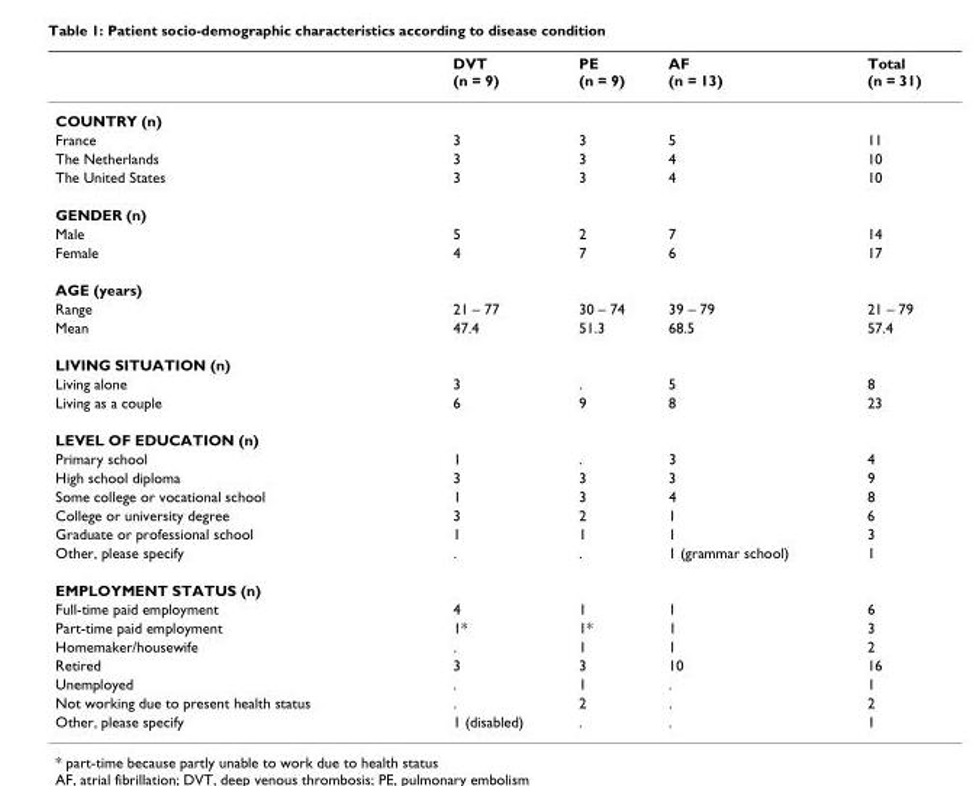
<table><thead><tr><td></td><td>DVT (n = 9)</td><td>PE (n = 9)</td><td>AF (n = 13)</td><td>Total (n = 31)</td></tr></thead><tbody><tr><td colspan="5">COUNTRY (n)</td></tr><tr><td>France</td><td>3</td><td>3</td><td>5</td><td>11</td></tr><tr><td>The Netherlands</td><td>3</td><td>3</td><td>4</td><td>10</td></tr><tr><td>The United States</td><td>3</td><td>3</td><td>4</td><td>10</td></tr><tr><td colspan="5">GENDER (n)</td></tr><tr><td>Male</td><td>5</td><td>2</td><td>7</td><td>14</td></tr><tr><td>Female</td><td>4</td><td>7</td><td>6</td><td>17</td></tr><tr><td colspan="5">AGE (years)</td></tr><tr><td>Range</td><td>21 – 77</td><td>30 – 74</td><td>39 – 79</td><td>21 – 79</td></tr><tr><td>Mean</td><td>47.4</td><td>51.3</td><td>68.5</td><td>57.4</td></tr><tr><td colspan="5">LIVING SITUATION (n)</td></tr><tr><td>Living alone</td><td>3</td><td>.</td><td>5</td><td>8</td></tr><tr><td>Living as a couple</td><td>6</td><td>9</td><td>8</td><td>23</td></tr><tr><td colspan="5">LEVEL OF EDUCATION (n)</td></tr><tr><td>Primary school</td><td>1</td><td>.</td><td>3</td><td>4</td></tr><tr><td>High school diploma</td><td>3</td><td>3</td><td>3</td><td>9</td></tr><tr><td>Some college or vocational school</td><td>1</td><td>3</td><td>4</td><td>8</td></tr><tr><td>College or university degree</td><td>3</td><td>2</td><td>1</td><td>6</td></tr><tr><td>Graduate or professional school</td><td>1</td><td>1</td><td>1</td><td>3</td></tr><tr><td>Other, please specify</td><td>.</td><td>.</td><td>1 (grammar school)</td><td>1</td></tr><tr><td colspan="5">EMPLOYMENT STATUS (n)</td></tr><tr><td>Full-time paid employment</td><td>4</td><td>1</td><td>1</td><td>6</td></tr><tr><td>Part-time paid employment</td><td>1*</td><td>1*</td><td>1</td><td>3</td></tr><tr><td>Homemaker/housewife</td><td>.</td><td>1</td><td>1</td><td>2</td></tr><tr><td>Retired</td><td>3</td><td>3</td><td>10</td><td>16</td></tr><tr><td>Unemployed</td><td>.</td><td>1</td><td>.</td><td>1</td></tr><tr><td>Not working due to present health status</td><td>.</td><td>2</td><td>.</td><td>2</td></tr><tr><td>Other, please specify</td><td>1 (disabled)</td><td>.</td><td>.</td><td>1</td></tr></tbody></table>